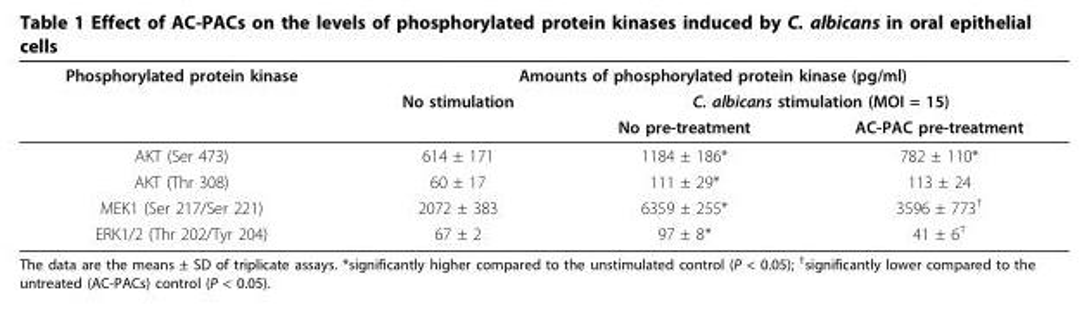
<table><thead><tr><td rowspan="3">Phosphorylated protein kinase</td><td colspan="3">Amounts of phosphorylated protein kinase (pg/ml)</td></tr><tr><td rowspan="2">No stimulation</td><td colspan="2">C. albicans stimulation (MOI = 15)</td></tr><tr><td>No pre-treatment</td><td>AC-PAC pre-treatment</td></tr></thead><tbody><tr><td>AKT (Ser 473)</td><td>614 ± 171</td><td>1184 ± 186*</td><td>782 ± 110*</td></tr><tr><td>AKT (Thr 308)</td><td>60 ± 17</td><td>111 ± 29*</td><td>113 ± 24</td></tr><tr><td>MEK1 (Ser 217/Ser 221)</td><td>2072 ± 383</td><td>6359 ± 255*</td><td>3596 ± 773<sup>†</sup></td></tr><tr><td>ERK1/2 (Thr 202/Tyr 204)</td><td>67 ± 2</td><td>97 ± 8*</td><td>41 ± 6<sup>†</sup></td></tr></tbody></table>